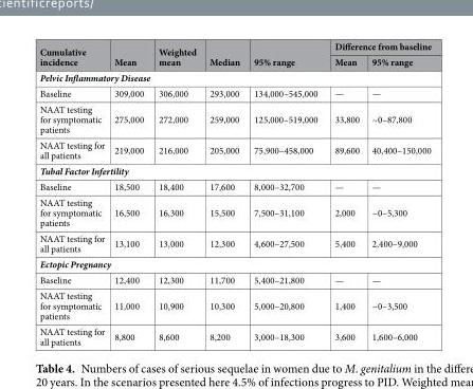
<table><thead><tr><td rowspan="2">Cumulative incidence</td><td rowspan="2">Mean</td><td rowspan="2">Weighted mean</td><td rowspan="2">Median</td><td rowspan="2">95% range</td><td colspan="2">Difference from baseline</td></tr><tr><td>Mean</td><td>95% range</td></tr></thead><tbody><tr><td colspan="7">Pelvic Inflammatory Disease</td></tr><tr><td>Baseline</td><td>309,000</td><td>306,000</td><td>293,000</td><td>134,000–545,000</td><td>—</td><td>—</td></tr><tr><td>NAAT testing for symptomatic patients</td><td>275,000</td><td>272,000</td><td>259,000</td><td>125,000–519,000</td><td>33,800</td><td>~0–87,800</td></tr><tr><td>NAAT testing for all patients</td><td>219,000</td><td>216,000</td><td>205,000</td><td>75,900–458,000</td><td>89,600</td><td>40,400–150,000</td></tr><tr><td colspan="7">Tubal Factor Infertility</td></tr><tr><td>Baseline</td><td>18,500</td><td>18,400</td><td>17,600</td><td>8,000–32,700</td><td>—</td><td>—</td></tr><tr><td>NAAT testing for symptomatic patients</td><td>16,500</td><td>16,300</td><td>15,500</td><td>7,500–31,100</td><td>2,000</td><td>~0–5,300</td></tr><tr><td>NAAT testing for all patients</td><td>13,100</td><td>13,000</td><td>12,300</td><td>4,600–27,500</td><td>5,400</td><td>2,400–9,000</td></tr><tr><td colspan="7">Ectopic Pregnancy</td></tr><tr><td>Baseline</td><td>12,400</td><td>12,300</td><td>11,700</td><td>5,400–21,800</td><td>—</td><td>—</td></tr><tr><td>NAAT testing for symptomatic patients</td><td>11,000</td><td>10,900</td><td>10,300</td><td>5,000–20,800</td><td>1,400</td><td>~0–3,500</td></tr><tr><td>NAAT testing for all patients</td><td>8,800</td><td>8,600</td><td>8,200</td><td>3,000–18,300</td><td>3,600</td><td>1,600–6,000</td></tr></tbody></table>